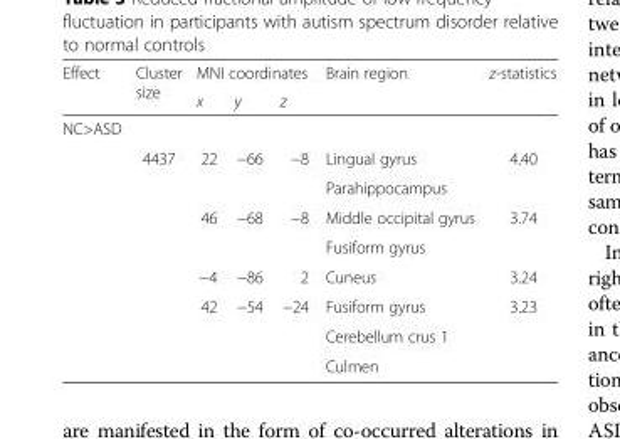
<table><thead><tr><td rowspan="2">Effect</td><td rowspan="2">Cluster size</td><td colspan="3">MNI coordinates</td><td rowspan="2">Brain region</td><td rowspan="2">z-statistics</td></tr><tr><td>x</td><td>y</td><td>z</td></tr></thead><tbody><tr><td colspan="7">NC&gt;ASD</td></tr><tr><td></td><td>4437</td><td>22</td><td>−66</td><td>−8</td><td>Lingual gyrus</td><td>4.40</td></tr><tr><td></td><td></td><td></td><td></td><td></td><td>Parahippocampus</td><td></td></tr><tr><td></td><td></td><td>46</td><td>−68</td><td>−8</td><td>Middle occipital gyrus</td><td>3.74</td></tr><tr><td></td><td></td><td></td><td></td><td></td><td>Fusiform gyrus</td><td></td></tr><tr><td></td><td></td><td>−4</td><td>−86</td><td>2</td><td>Cuneus</td><td>3.24</td></tr><tr><td></td><td></td><td>42</td><td>−54</td><td>−24</td><td>Fusiform gyrus</td><td>3.23</td></tr><tr><td></td><td></td><td></td><td></td><td></td><td>Cerebellum crus 1</td><td></td></tr><tr><td></td><td></td><td></td><td></td><td></td><td>Culmen</td><td></td></tr></tbody></table>